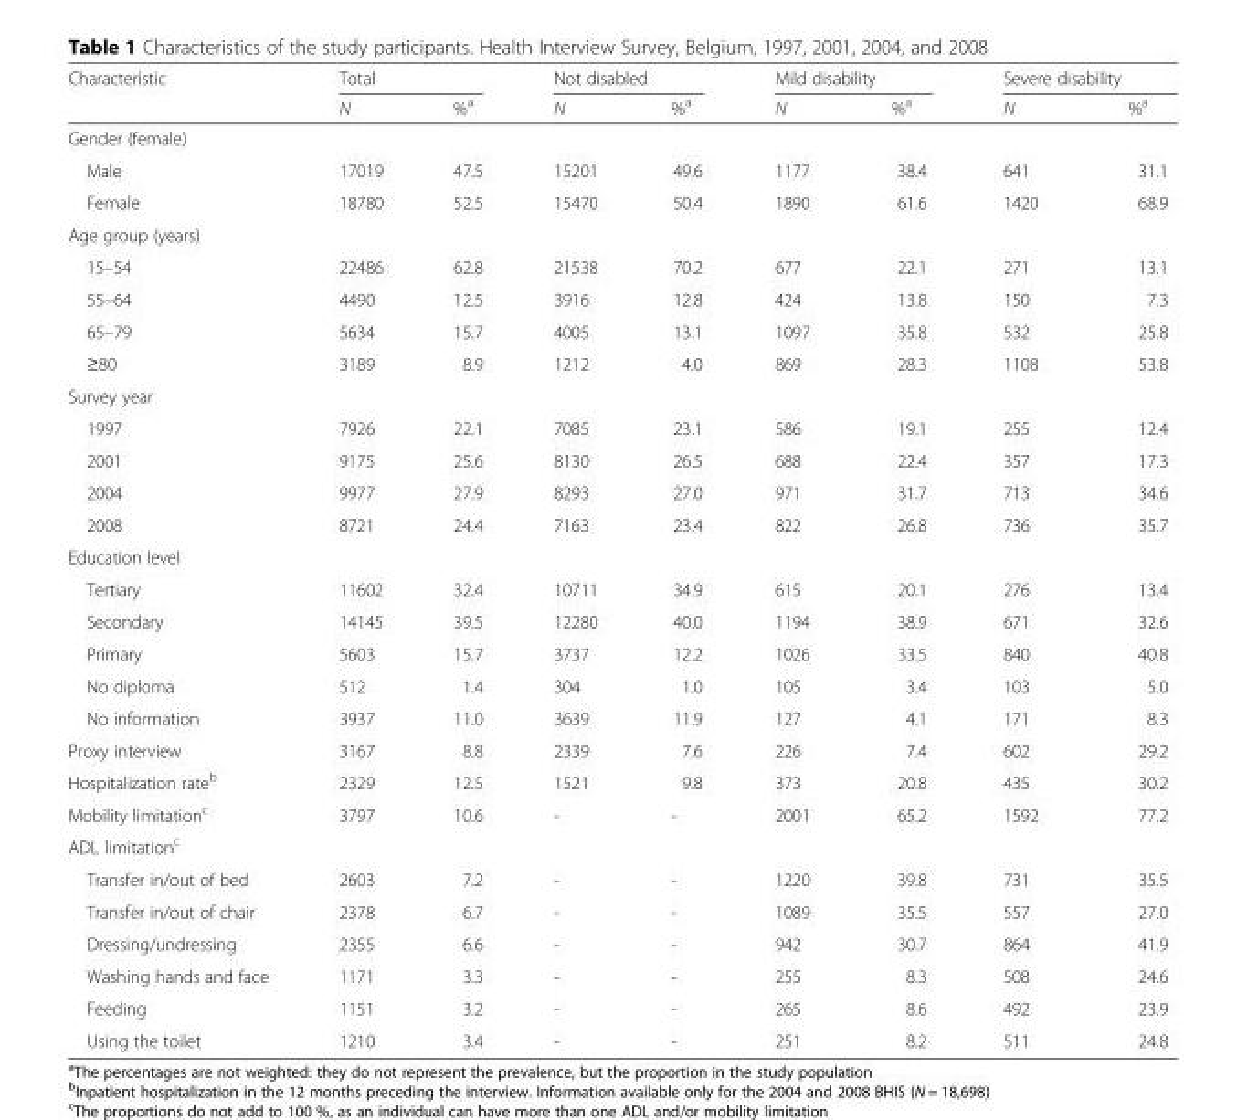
<table><thead><tr><td rowspan="2">Characteristic</td><td colspan="2">Total</td><td colspan="2">Not disabled</td><td colspan="2">Mild disability</td><td colspan="2">Severe disability</td></tr><tr><td>N</td><td>%<sup>a</sup></td><td>N</td><td>%<sup>a</sup></td><td>N</td><td>%<sup>a</sup></td><td>N</td><td>%<sup>a</sup></td></tr></thead><tbody><tr><td colspan="9">Gender (female)</td></tr><tr><td>Male</td><td>17019</td><td>47.5</td><td>15201</td><td>49.6</td><td>1177</td><td>38.4</td><td>641</td><td>31.1</td></tr><tr><td>Female</td><td>18780</td><td>52.5</td><td>15470</td><td>50.4</td><td>1890</td><td>61.6</td><td>1420</td><td>68.9</td></tr><tr><td colspan="9">Age group (years)</td></tr><tr><td>15–54</td><td>22486</td><td>62.8</td><td>21538</td><td>70.2</td><td>677</td><td>22.1</td><td>271</td><td>13.1</td></tr><tr><td>55–64</td><td>4490</td><td>12.5</td><td>3916</td><td>12.8</td><td>424</td><td>13.8</td><td>150</td><td>7.3</td></tr><tr><td>65–79</td><td>5634</td><td>15.7</td><td>4005</td><td>13.1</td><td>1097</td><td>35.8</td><td>532</td><td>25.8</td></tr><tr><td>≥80</td><td>3189</td><td>8.9</td><td>1212</td><td>4.0</td><td>869</td><td>28.3</td><td>1108</td><td>53.8</td></tr><tr><td colspan="9">Survey year</td></tr><tr><td>1997</td><td>7926</td><td>22.1</td><td>7085</td><td>23.1</td><td>586</td><td>19.1</td><td>255</td><td>12.4</td></tr><tr><td>2001</td><td>9175</td><td>25.6</td><td>8130</td><td>26.5</td><td>688</td><td>22.4</td><td>357</td><td>17.3</td></tr><tr><td>2004</td><td>9977</td><td>27.9</td><td>8293</td><td>27.0</td><td>971</td><td>31.7</td><td>713</td><td>34.6</td></tr><tr><td>2008</td><td>8721</td><td>24.4</td><td>7163</td><td>23.4</td><td>822</td><td>26.8</td><td>736</td><td>35.7</td></tr><tr><td colspan="9">Education level</td></tr><tr><td>Tertiary</td><td>11602</td><td>32.4</td><td>10711</td><td>34.9</td><td>615</td><td>20.1</td><td>276</td><td>13.4</td></tr><tr><td>Secondary</td><td>14145</td><td>39.5</td><td>12280</td><td>40.0</td><td>1194</td><td>38.9</td><td>671</td><td>32.6</td></tr><tr><td>Primary</td><td>5603</td><td>15.7</td><td>3737</td><td>12.2</td><td>1026</td><td>33.5</td><td>840</td><td>40.8</td></tr><tr><td>No diploma</td><td>512</td><td>1.4</td><td>304</td><td>1.0</td><td>105</td><td>3.4</td><td>103</td><td>5.0</td></tr><tr><td>No information</td><td>3937</td><td>11.0</td><td>3639</td><td>11.9</td><td>127</td><td>4.1</td><td>171</td><td>8.3</td></tr><tr><td>Proxy interview</td><td>3167</td><td>8.8</td><td>2339</td><td>7.6</td><td>226</td><td>7.4</td><td>602</td><td>29.2</td></tr><tr><td>Hospitalization rate<sup>b</sup></td><td>2329</td><td>12.5</td><td>1521</td><td>9.8</td><td>373</td><td>20.8</td><td>435</td><td>30.2</td></tr><tr><td>Mobility limitation<sup>c</sup></td><td>3797</td><td>10.6</td><td>-</td><td>-</td><td>2001</td><td>65.2</td><td>1592</td><td>77.2</td></tr><tr><td colspan="9">ADL limitation<sup>c</sup></td></tr><tr><td>Transfer in/out of bed</td><td>2603</td><td>7.2</td><td>-</td><td>-</td><td>1220</td><td>39.8</td><td>731</td><td>35.5</td></tr><tr><td>Transfer in/out of chair</td><td>2378</td><td>6.7</td><td>-</td><td>-</td><td>1089</td><td>35.5</td><td>557</td><td>27.0</td></tr><tr><td>Dressing/undressing</td><td>2355</td><td>6.6</td><td>-</td><td>-</td><td>942</td><td>30.7</td><td>864</td><td>41.9</td></tr><tr><td>Washing hands and face</td><td>1171</td><td>3.3</td><td>-</td><td>-</td><td>255</td><td>8.3</td><td>508</td><td>24.6</td></tr><tr><td>Feeding</td><td>1151</td><td>3.2</td><td>-</td><td>-</td><td>265</td><td>8.6</td><td>492</td><td>23.9</td></tr><tr><td>Using the toilet</td><td>1210</td><td>3.4</td><td>-</td><td>-</td><td>251</td><td>8.2</td><td>511</td><td>24.8</td></tr></tbody></table>